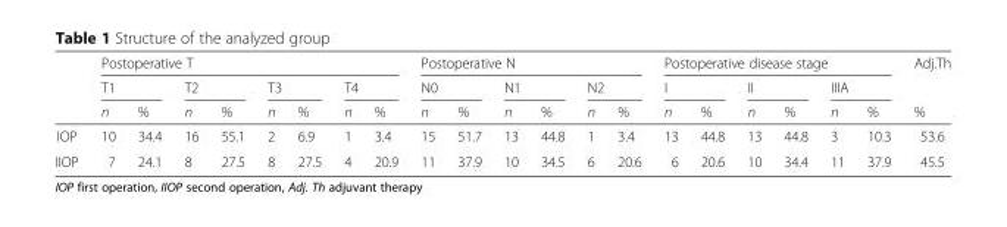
<table><thead><tr><td rowspan="3"></td><td colspan="8">Postoperative T</td><td colspan="6">Postoperative N</td><td colspan="6">Postoperative disease stage</td><td rowspan="3">Adj.Th %</td></tr><tr><td colspan="2">T1</td><td colspan="2">T2</td><td colspan="2">T3</td><td colspan="2">T4</td><td colspan="2">N0</td><td colspan="2">N1</td><td colspan="2">N2</td><td colspan="2">I</td><td colspan="2">II</td><td colspan="2">IIIA</td></tr><tr><td>n</td><td>%</td><td>n</td><td>%</td><td>n</td><td>%</td><td>n</td><td>%</td><td>n</td><td>%</td><td>n</td><td>%</td><td>n</td><td>%</td><td>n</td><td>%</td><td>n</td><td>%</td><td>n</td><td>%</td></tr></thead><tbody><tr><td>IOP</td><td>10</td><td>34.4</td><td>16</td><td>55.1</td><td>2</td><td>6.9</td><td>1</td><td>3.4</td><td>15</td><td>51.7</td><td>13</td><td>44.8</td><td>1</td><td>3.4</td><td>13</td><td>44.8</td><td>13</td><td>44.8</td><td>3</td><td>10.3</td><td>53.6</td></tr><tr><td>IIOP</td><td>7</td><td>24.1</td><td>8</td><td>27.5</td><td>8</td><td>27.5</td><td>4</td><td>20.9</td><td>11</td><td>37.9</td><td>10</td><td>34.5</td><td>6</td><td>20.6</td><td>6</td><td>20.6</td><td>10</td><td>34.4</td><td>11</td><td>37.9</td><td>45.5</td></tr></tbody></table>